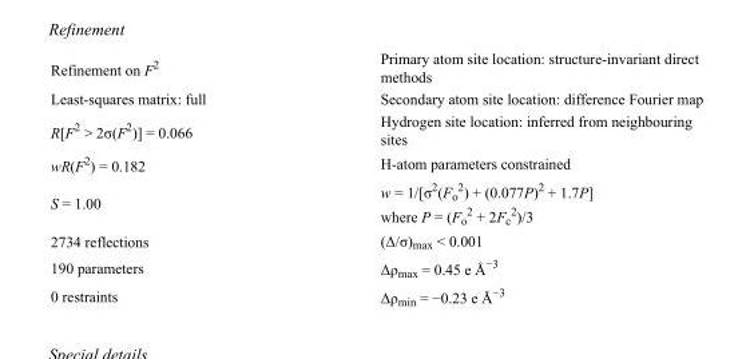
<table><tbody><tr><td>Refinement on F<sup>2</sup></td><td>Primary atom site location: structure-invariant direct methods</td></tr><tr><td>Least-squares matrix: full</td><td>Secondary atom site location: difference Fourier map</td></tr><tr><td>R[F<sup>2</sup> &gt; 2σ(F<sup>2</sup>)] = 0.066</td><td>Hydrogen site location: inferred from neighbouring sites</td></tr><tr><td>wR(F<sup>2</sup>) = 0.182</td><td>H-atom parameters constrained</td></tr><tr><td>S = 1.00</td><td>w = 1/[σ<sup>2</sup>(F<sub>o</sub> <sup>2</sup>) + (0.077P)<sup>2</sup> + 1.7P] where P = (F<sub>o</sub> <sup>2</sup> + 2F<sub>c</sub> <sup>2</sup>)/3</td></tr><tr><td>2734 reflections</td><td>(Δ/σ)<sub>max</sub> &lt; 0.001</td></tr><tr><td>190 parameters</td><td>Δρ<sub>max</sub> = 0.45 e Å<sup>−3</sup></td></tr><tr><td>0 restraints</td><td>Δρ<sub>min</sub> = −0.23 e Å<sup>−3</sup></td></tr></tbody></table>